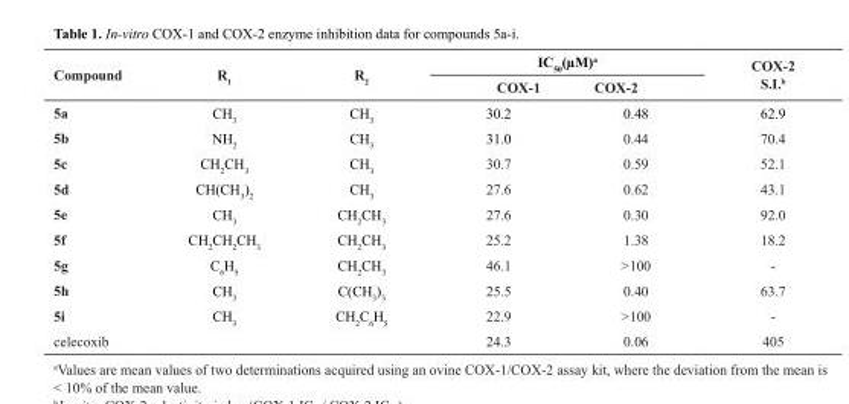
<table><thead><tr><td rowspan="3">Compound 5a</td><td rowspan="3">R<sub>1</sub> CH<sub>3</sub></td><td rowspan="3">R<sub>2</sub> CH<sub>3</sub></td><td rowspan="2" colspan="2">IC<sub>50</sub>(µM)a COX-1 COX-2</td><td rowspan="3">COX-2 S.I.b 62.9</td></tr><tr></tr><tr><td>30.2</td><td>0.48</td></tr></thead><tbody><tr><td>5b</td><td>NH<sub>2</sub></td><td>CH<sub>3</sub></td><td>31.0</td><td>0.44</td><td>70.4</td></tr><tr><td>5c</td><td>CH<sub>2</sub>CH<sub>3</sub></td><td>CH<sub>3</sub></td><td>30.7</td><td>0.59</td><td>52.1</td></tr><tr><td>5d</td><td>CH(CH<sub>3</sub>)<sub>2</sub></td><td>CH<sub>3</sub></td><td>27.6</td><td>0.62</td><td>43.1</td></tr><tr><td>5e</td><td>CH<sub>3</sub></td><td>CH<sub>2</sub>CH<sub>3</sub></td><td>27.6</td><td>0.30</td><td>92.0</td></tr><tr><td>5f</td><td>CH<sub>2</sub>CH<sub>2</sub>CH<sub>3</sub></td><td>CH<sub>2</sub>CH<sub>3</sub></td><td>25.2</td><td>1.38</td><td>18.2</td></tr><tr><td>5g</td><td>C<sub>6</sub>H<sub>5</sub></td><td>CH<sub>2</sub>CH<sub>3</sub></td><td>46.1</td><td>&gt;100</td><td>-</td></tr><tr><td>5h</td><td>CH<sub>3</sub></td><td>C(CH<sub>3</sub>)<sub>3</sub></td><td>25.5</td><td>0.40</td><td>63.7</td></tr><tr><td>5i</td><td>CH<sub>3</sub></td><td>CH<sub>2</sub>C<sub>6</sub>H<sub>5</sub></td><td>22.9</td><td>&gt;100</td><td>-</td></tr><tr><td>celecoxib</td><td></td><td></td><td>24.3</td><td>0.06</td><td>405</td></tr></tbody></table>